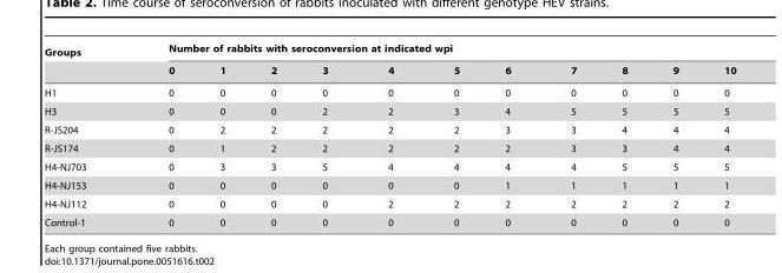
<table><thead><tr><td rowspan="2">Groups</td><td colspan="11">Number of rabbits with seroconversion at indicated wpi</td></tr><tr><td>0</td><td>1</td><td>2</td><td>3</td><td>4</td><td>5</td><td>6</td><td>7</td><td>8</td><td>9</td><td>10</td></tr></thead><tbody><tr><td>H1</td><td>0</td><td>0</td><td>0</td><td>0</td><td>0</td><td>0</td><td>0</td><td>0</td><td>0</td><td>0</td><td>0</td></tr><tr><td>H3</td><td>0</td><td>0</td><td>0</td><td>2</td><td>2</td><td>3</td><td>4</td><td>5</td><td>5</td><td>5</td><td>5</td></tr><tr><td>R-JS204</td><td>0</td><td>2</td><td>2</td><td>2</td><td>2</td><td>2</td><td>3</td><td>3</td><td>4</td><td>4</td><td>4</td></tr><tr><td>R-JS174</td><td>0</td><td>1</td><td>2</td><td>2</td><td>2</td><td>2</td><td>2</td><td>3</td><td>3</td><td>4</td><td>4</td></tr><tr><td>H4-NJ703</td><td>0</td><td>3</td><td>3</td><td>5</td><td>4</td><td>4</td><td>4</td><td>4</td><td>5</td><td>5</td><td>5</td></tr><tr><td>H4-NJ153</td><td>0</td><td>0</td><td>0</td><td>0</td><td>0</td><td>0</td><td>1</td><td>1</td><td>1</td><td>1</td><td>1</td></tr><tr><td>H4-NJ112</td><td>0</td><td>0</td><td>0</td><td>0</td><td>2</td><td>2</td><td>2</td><td>2</td><td>2</td><td>2</td><td>2</td></tr><tr><td>Control-1</td><td>0</td><td>0</td><td>0</td><td>0</td><td>0</td><td>0</td><td>0</td><td>0</td><td>0</td><td>0</td><td>0</td></tr></tbody></table>